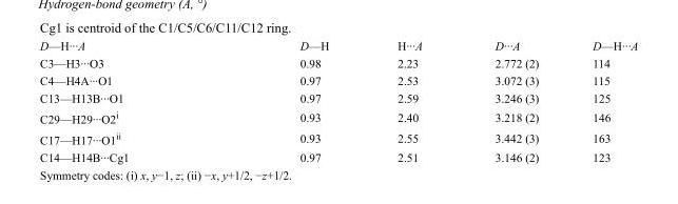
<table><tbody><tr><td>D—H···A</td><td>D—H</td><td>H···A</td><td>D···A</td><td>D—H···A</td></tr><tr><td>C3—H3···O3</td><td>0.98</td><td>2.23</td><td>2.772 (2)</td><td>114</td></tr><tr><td>C4—H4A···O1</td><td>0.97</td><td>2.53</td><td>3.072 (3)</td><td>115</td></tr><tr><td>C13—H13B···O1</td><td>0.97</td><td>2.59</td><td>3.246 (3)</td><td>125</td></tr><tr><td>C29—H29···O2<sup>i</sup></td><td>0.93</td><td>2.40</td><td>3.218 (2)</td><td>146</td></tr><tr><td>C17—H17···O1<sup>ii</sup></td><td>0.93</td><td>2.55</td><td>3.442 (3)</td><td>163</td></tr><tr><td>C14—H14B···Cg1</td><td>0.97</td><td>2.51</td><td>3.146 (2)</td><td>123</td></tr></tbody></table>